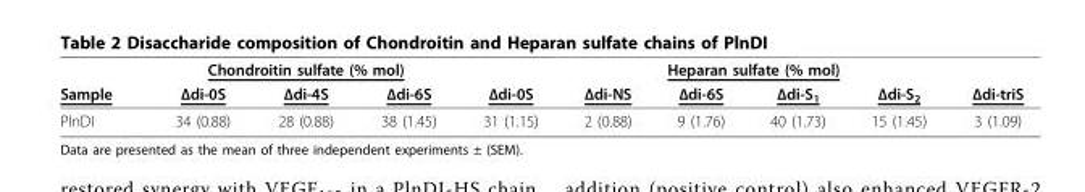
<table><thead><tr><td rowspan="2">Sample</td><td colspan="3">Chondroitin sulfate (% mol)</td><td colspan="6">Heparan sulfate (% mol)</td></tr><tr><td>Δdi-0S</td><td>Δdi-4S</td><td>Δdi-6S</td><td>Δdi-0S</td><td>Δdi-NS</td><td>Δdi-6S</td><td>Δdi-S<sub>1</sub></td><td>Δdi-S<sub>2</sub></td><td>Δdi-triS</td></tr></thead><tbody><tr><td>PlnDI</td><td>34 (0.88)</td><td>28 (0.88)</td><td>38 (1.45)</td><td>31 (1.15)</td><td>2 (0.88)</td><td>9 (1.76)</td><td>40 (1.73)</td><td>15 (1.45)</td><td>3 (1.09)</td></tr></tbody></table>